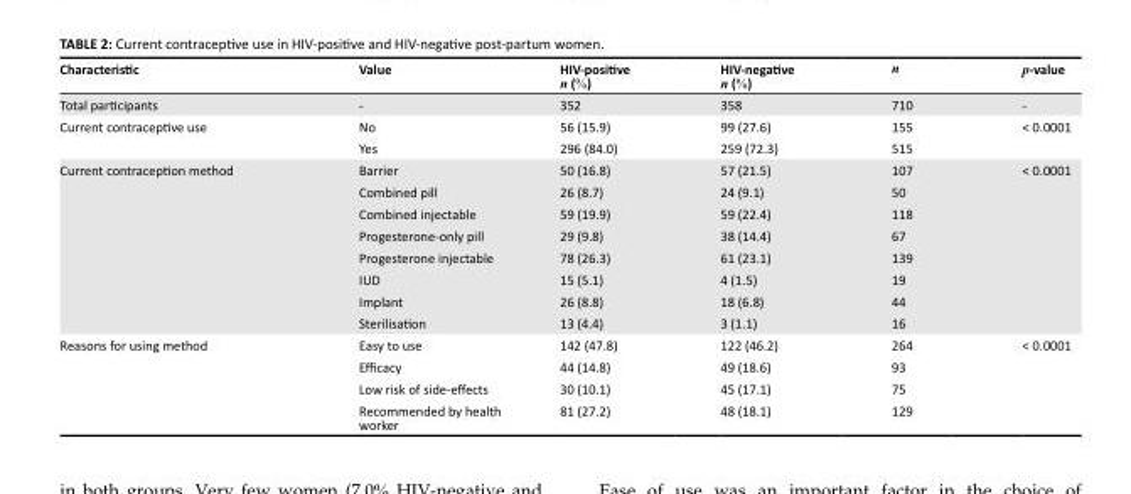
<table><thead><tr><td>Characteristic</td><td>Value</td><td>HIV-positive n (%)</td><td>HIV-negative n (%)</td><td>n</td><td>p-value</td></tr></thead><tbody><tr><td>Total participants</td><td>-</td><td>352</td><td>358</td><td>710</td><td>-</td></tr><tr><td rowspan="2">Current contraceptive use</td><td>No</td><td>56 (15.9)</td><td>99 (27.6)</td><td>155</td><td>&lt; 0.0001</td></tr><tr><td>Yes</td><td>296 (84.0)</td><td>259 (72.3)</td><td>515</td><td></td></tr><tr><td rowspan="8">Current contraception method</td><td>Barrier</td><td>50 (16.8)</td><td>57 (21.5)</td><td>107</td><td>&lt; 0.0001</td></tr><tr><td>Combined pill</td><td>26 (8.7)</td><td>24 (9.1)</td><td>50</td><td></td></tr><tr><td>Combined injectable</td><td>59 (19.9)</td><td>59 (22.4)</td><td>118</td><td></td></tr><tr><td>Progesterone-only pill</td><td>29 (9.8)</td><td>38 (14.4)</td><td>67</td><td></td></tr><tr><td>Progesterone injectable</td><td>78 (26.3)</td><td>61 (23.1)</td><td>139</td><td></td></tr><tr><td>IUD</td><td>15 (5.1)</td><td>4 (1.5)</td><td>19</td><td></td></tr><tr><td>Implant</td><td>26 (8.8)</td><td>18 (6.8)</td><td>44</td><td></td></tr><tr><td>Sterilisation</td><td>13 (4.4)</td><td>3 (1.1)</td><td>16</td><td></td></tr><tr><td rowspan="4">Reasons for using method</td><td>Easy to use</td><td>142 (47.8)</td><td>122 (46.2)</td><td>264</td><td>&lt; 0.0001</td></tr><tr><td>Efficacy</td><td>44 (14.8)</td><td>49 (18.6)</td><td>93</td><td></td></tr><tr><td>Low risk of side-effects</td><td>30 (10.1)</td><td>45 (17.1)</td><td>75</td><td></td></tr><tr><td>Recommended by health worker</td><td>81 (27.2)</td><td>48 (18.1)</td><td>129</td><td></td></tr></tbody></table>